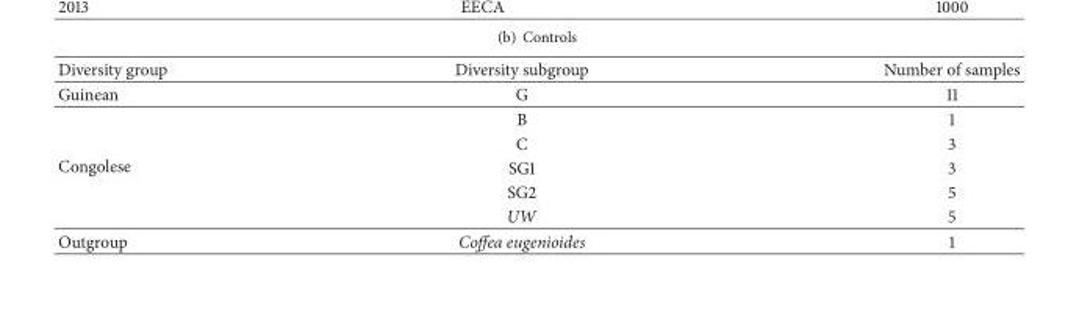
<table><thead><tr><td>Diversity group</td><td>Diversity subgroup</td><td>Number of samples</td></tr></thead><tbody><tr><td>Guinean</td><td>G</td><td>11</td></tr><tr><td rowspan="5">Congolese</td><td>B</td><td>1</td></tr><tr><td>C</td><td>3</td></tr><tr><td>SG1</td><td>3</td></tr><tr><td>SG2</td><td>5</td></tr><tr><td>UW</td><td>5</td></tr><tr><td>Outgroup</td><td>Coffea eugenioides</td><td>1</td></tr></tbody></table>